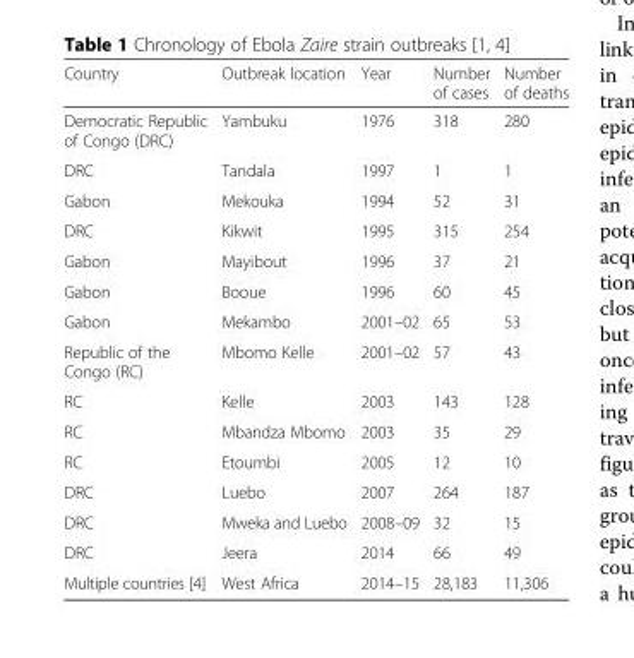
<table><thead><tr><td>Country</td><td>Outbreak location</td><td>Year</td><td>Number of cases</td><td>Number of deaths</td></tr></thead><tbody><tr><td>Democratic Republic of Congo (DRC)</td><td>Yambuku</td><td>1976</td><td>318</td><td>280</td></tr><tr><td>DRC</td><td>Tandala</td><td>1997</td><td>1</td><td>1</td></tr><tr><td>Gabon</td><td>Mekouka</td><td>1994</td><td>52</td><td>31</td></tr><tr><td>DRC</td><td>Kikwit</td><td>1995</td><td>315</td><td>254</td></tr><tr><td>Gabon</td><td>Mayibout</td><td>1996</td><td>37</td><td>21</td></tr><tr><td>Gabon</td><td>Booue</td><td>1996</td><td>60</td><td>45</td></tr><tr><td>Gabon</td><td>Mekambo</td><td>2001–02</td><td>65</td><td>53</td></tr><tr><td>Republic of the Congo (RC)</td><td>Mbomo Kelle</td><td>2001–02</td><td>57</td><td>43</td></tr><tr><td>RC</td><td>Kelle</td><td>2003</td><td>143</td><td>128</td></tr><tr><td>RC</td><td>Mbandza Mbomo</td><td>2003</td><td>35</td><td>29</td></tr><tr><td>RC</td><td>Etoumbi</td><td>2005</td><td>12</td><td>10</td></tr><tr><td>DRC</td><td>Luebo</td><td>2007</td><td>264</td><td>187</td></tr><tr><td>DRC</td><td>Mweka and Luebo</td><td>2008–09</td><td>32</td><td>15</td></tr><tr><td>DRC</td><td>Jeera</td><td>2014</td><td>66</td><td>49</td></tr><tr><td>Multiple countries [4]</td><td>West Africa</td><td>2014–15</td><td>28,183</td><td>11,306</td></tr></tbody></table>